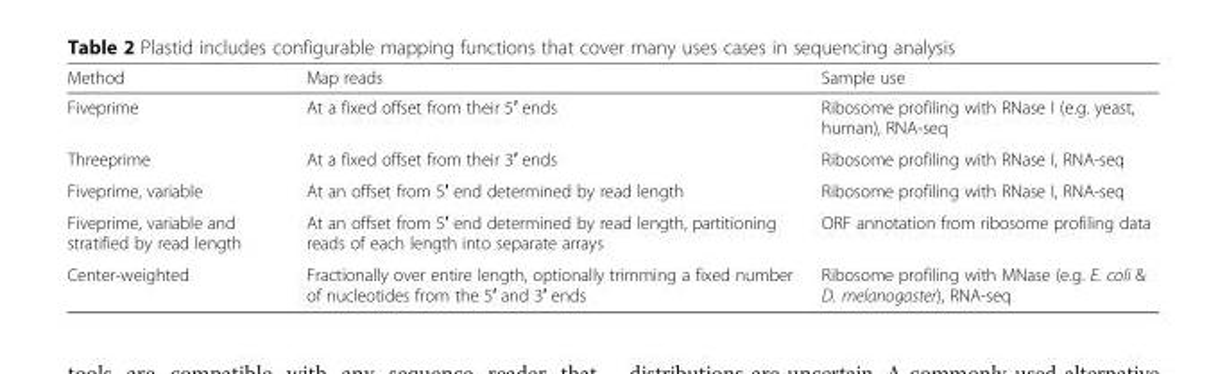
<table><thead><tr><td>Method</td><td>Map reads</td><td>Sample use</td></tr></thead><tbody><tr><td>Fiveprime</td><td>At a fixed offset from their 5′ ends</td><td>Ribosome profiling with RNase I (e.g. yeast, human), RNA-seq</td></tr><tr><td>Threeprime</td><td>At a fixed offset from their 3′ ends</td><td>Ribosome profiling with RNase I, RNA-seq</td></tr><tr><td>Fiveprime, variable</td><td>At an offset from 5′ end determined by read length</td><td>Ribosome profiling with RNase I, RNA-seq</td></tr><tr><td>Fiveprime, variable and stratified by read length</td><td>At an offset from 5′ end determined by read length, partitioning reads of each length into separate arrays</td><td>ORF annotation from ribosome profiling data</td></tr><tr><td>Center-weighted</td><td>Fractionally over entire length, optionally trimming a fixed number of nucleotides from the 5′ and 3′ ends</td><td>Ribosome profiling with MNase (e.g. E. coli &amp; D. melanogaster), RNA-seq</td></tr></tbody></table>